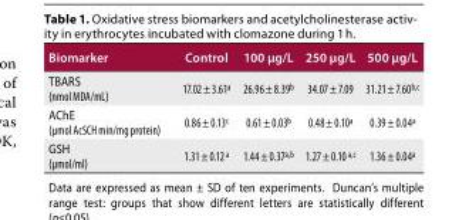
<table><thead><tr><td>Biomarker</td><td>Control</td><td>100 μg/L</td><td>250 μg/L</td><td>500 μg/L</td></tr></thead><tbody><tr><td>TBARS (nmol MDA/mL)</td><td>17.02 ± 3.61<sup>a</sup></td><td>26.96 ± 8.39<sup>b</sup></td><td>34.07 ± 7.09</td><td>31.21 ± 7.60<sup>b,c</sup></td></tr><tr><td>AChE (μmol AcSCH min/mg protein)</td><td>0.86 ± 0.13<sup>c</sup></td><td>0.61 ± 0.03<sup>b</sup></td><td>0.48 ± 0.10<sup>a</sup></td><td>0.39 ± 0.04<sup>a</sup></td></tr><tr><td>GSH (μmol/ml)</td><td>1.31 ± 0.12 <sup>a</sup></td><td>1.44 ± 0.37<sup>a,b</sup></td><td>1.27 ± 0.10 <sup>a,c</sup></td><td>1.36 ± 0.04<sup>a</sup></td></tr></tbody></table>